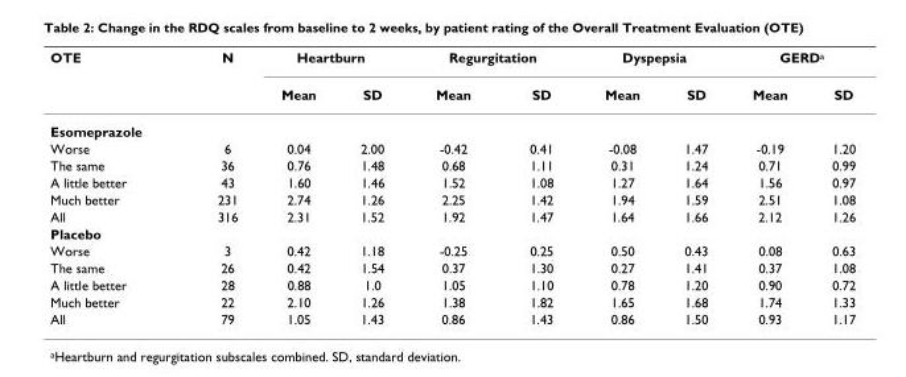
<table><thead><tr><td rowspan="2">OTE</td><td rowspan="2">N</td><td colspan="2">Heartburn</td><td colspan="2">Regurgitation</td><td colspan="2">Dyspepsia</td><td colspan="2">GERD<sup>a</sup></td></tr><tr><td>Mean</td><td>SD</td><td>Mean</td><td>SD</td><td>Mean</td><td>SD</td><td>Mean</td><td>SD</td></tr></thead><tbody><tr><td colspan="10">Esomeprazole</td></tr><tr><td>Worse</td><td>6</td><td>0.04</td><td>2.00</td><td>-0.42</td><td>0.41</td><td>-0.08</td><td>1.47</td><td>-0.19</td><td>1.20</td></tr><tr><td>The same</td><td>36</td><td>0.76</td><td>1.48</td><td>0.68</td><td>1.11</td><td>0.31</td><td>1.24</td><td>0.71</td><td>0.99</td></tr><tr><td>A little better</td><td>43</td><td>1.60</td><td>1.46</td><td>1.52</td><td>1.08</td><td>1.27</td><td>1.64</td><td>1.56</td><td>0.97</td></tr><tr><td>Much better</td><td>231</td><td>2.74</td><td>1.26</td><td>2.25</td><td>1.42</td><td>1.94</td><td>1.59</td><td>2.51</td><td>1.08</td></tr><tr><td>All</td><td>316</td><td>2.31</td><td>1.52</td><td>1.92</td><td>1.47</td><td>1.64</td><td>1.66</td><td>2.12</td><td>1.26</td></tr><tr><td colspan="10">Placebo</td></tr><tr><td>Worse</td><td>3</td><td>0.42</td><td>1.18</td><td>-0.25</td><td>0.25</td><td>0.50</td><td>0.43</td><td>0.08</td><td>0.63</td></tr><tr><td>The same</td><td>26</td><td>0.42</td><td>1.54</td><td>0.37</td><td>1.30</td><td>0.27</td><td>1.41</td><td>0.37</td><td>1.08</td></tr><tr><td>A little better</td><td>28</td><td>0.88</td><td>1.0</td><td>1.05</td><td>1.10</td><td>0.78</td><td>1.20</td><td>0.90</td><td>0.72</td></tr><tr><td>Much better</td><td>22</td><td>2.10</td><td>1.26</td><td>1.38</td><td>1.82</td><td>1.65</td><td>1.68</td><td>1.74</td><td>1.33</td></tr><tr><td>All</td><td>79</td><td>1.05</td><td>1.43</td><td>0.86</td><td>1.43</td><td>0.86</td><td>1.50</td><td>0.93</td><td>1.17</td></tr></tbody></table>